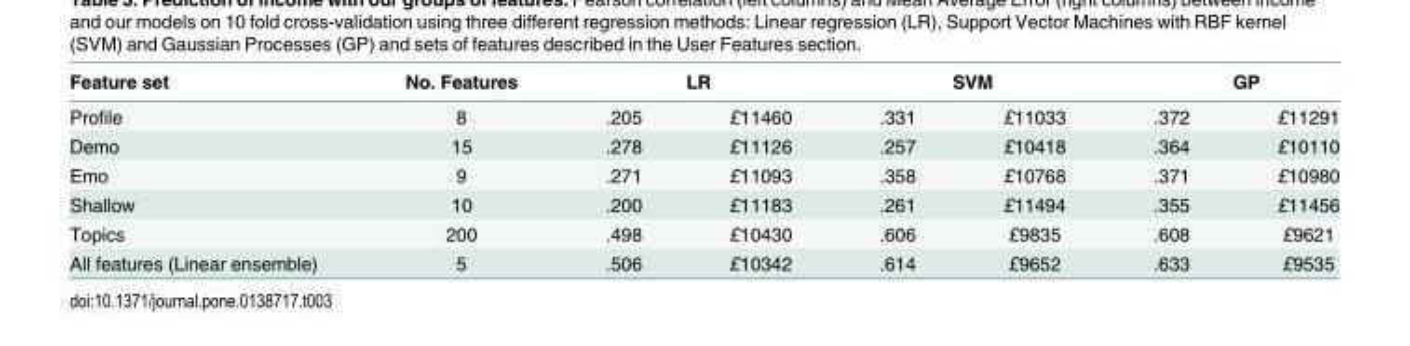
<table><thead><tr><td rowspan="2">Feature set Profile</td><td rowspan="2">No. Features 8</td><td colspan="2">LR</td><td colspan="2">SVM</td><td colspan="2">GP</td></tr><tr><td>.205</td><td>£11460</td><td>.331</td><td>£11033</td><td>.372</td><td>£11291</td></tr></thead><tbody><tr><td>Demo</td><td>15</td><td>.278</td><td>£11126</td><td>.257</td><td>£10418</td><td>.364</td><td>£10110</td></tr><tr><td>Emo</td><td>9</td><td>.271</td><td>£11093</td><td>.358</td><td>£10768</td><td>.371</td><td>£10980</td></tr><tr><td>Shallow</td><td>10</td><td>.200</td><td>£11183</td><td>.261</td><td>£11494</td><td>.355</td><td>£11456</td></tr><tr><td>Topics</td><td>200</td><td>.498</td><td>£10430</td><td>.606</td><td>£9835</td><td>.608</td><td>£9621</td></tr><tr><td>All features (Linear ensemble)</td><td>5</td><td>.506</td><td>£10342</td><td>.614</td><td>£9652</td><td>.633</td><td>£9535</td></tr></tbody></table>